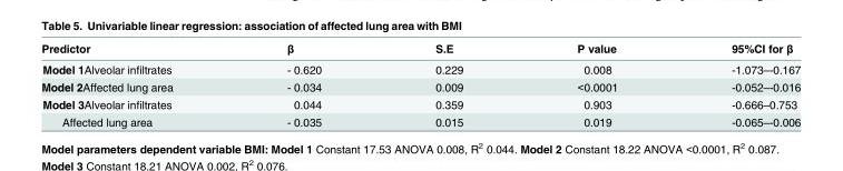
<table><thead><tr><td>Predictor</td><td>β</td><td>S.E</td><td>P value</td><td>95%CI for β</td></tr></thead><tbody><tr><td>Model 1Alveolar infiltrates</td><td>- 0.620</td><td>0.229</td><td>0.008</td><td>-1.073–-0.167</td></tr><tr><td>Model 2Affected lung area</td><td>- 0.034</td><td>0.009</td><td>&lt;0.0001</td><td>-0.052–-0.016</td></tr><tr><td>Model 3Alveolar infiltrates</td><td>0.044</td><td>0.359</td><td>0.903</td><td>-0.666–0.753</td></tr><tr><td>Affected lung area</td><td>- 0.035</td><td>0.015</td><td>0.019</td><td>-0.065–-0.006</td></tr></tbody></table>